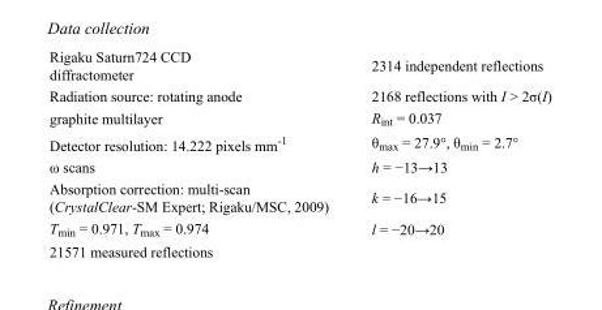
<table><tbody><tr><td>Rigaku Saturn724 CCD diffractometer</td><td>2314 independent reflections</td></tr><tr><td>Radiation source: rotating anode</td><td>2168 reflections with I &gt; 2σ(I)</td></tr><tr><td>graphite multilayer</td><td>R<sub>int</sub> = 0.037</td></tr><tr><td>Detector resolution: 14.222 pixels mm<sup>-1</sup></td><td>θ<sub>max</sub> = 27.9°, θ<sub>min</sub> = 2.7°</td></tr><tr><td>ω scans</td><td>h = −13→13</td></tr><tr><td>Absorption correction: multi-scan (CrystalClear-SM Expert; Rigaku/MSC, 2009)</td><td>k = −16→15</td></tr><tr><td>T<sub>min</sub> = 0.971, T<sub>max</sub> = 0.974</td><td>l = −20→20</td></tr><tr><td>21571 measured reflections</td><td></td></tr></tbody></table>